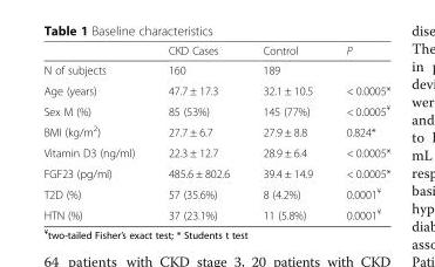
<table><thead><tr><td></td><td>CKD Cases</td><td>Control</td><td>P</td></tr></thead><tbody><tr><td>N of subjects</td><td>160</td><td>189</td><td></td></tr><tr><td>Age (years)</td><td>47.7 ± 17.3</td><td>32.1 ± 10.5</td><td>&lt; 0.0005*</td></tr><tr><td>Sex M (%)</td><td>85 (53%)</td><td>145 (77%)</td><td>&lt; 0.0005<sup>¥</sup></td></tr><tr><td>BMI (kg/m<sup>2</sup>)</td><td>27.7 ± 6.7</td><td>27.9 ± 8.8</td><td>0.824*</td></tr><tr><td>Vitamin D3 (ng/ml)</td><td>22.3 ± 12.7</td><td>28.9 ± 6.4</td><td>&lt; 0.0005*</td></tr><tr><td>FGF23 (pg/ml)</td><td>485.6 ± 802.6</td><td>39.4 ± 14.9</td><td>&lt; 0.0005*</td></tr><tr><td>T2D (%)</td><td>57 (35.6%)</td><td>8 (4.2%)</td><td>0.0001<sup>¥</sup></td></tr><tr><td>HTN (%)</td><td>37 (23.1%)</td><td>11 (5.8%)</td><td>0.0001<sup>¥</sup></td></tr></tbody></table>